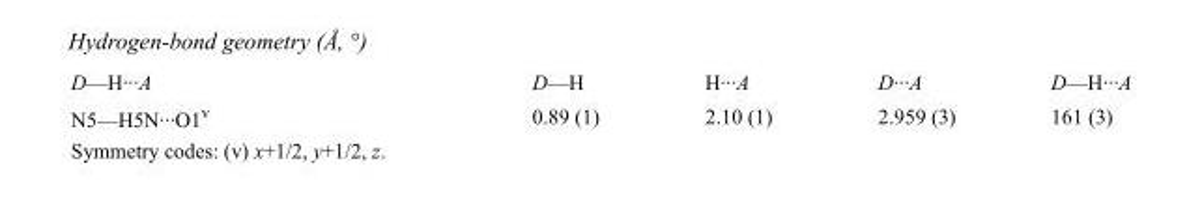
<table><tbody><tr><td>D—H···A</td><td>D—H</td><td>H···A</td><td>D···A</td><td>D—H···A</td></tr><tr><td>N5—H5N···O1<sup>v</sup></td><td>0.89 (1)</td><td>2.10 (1)</td><td>2.959 (3)</td><td>161 (3)</td></tr></tbody></table>